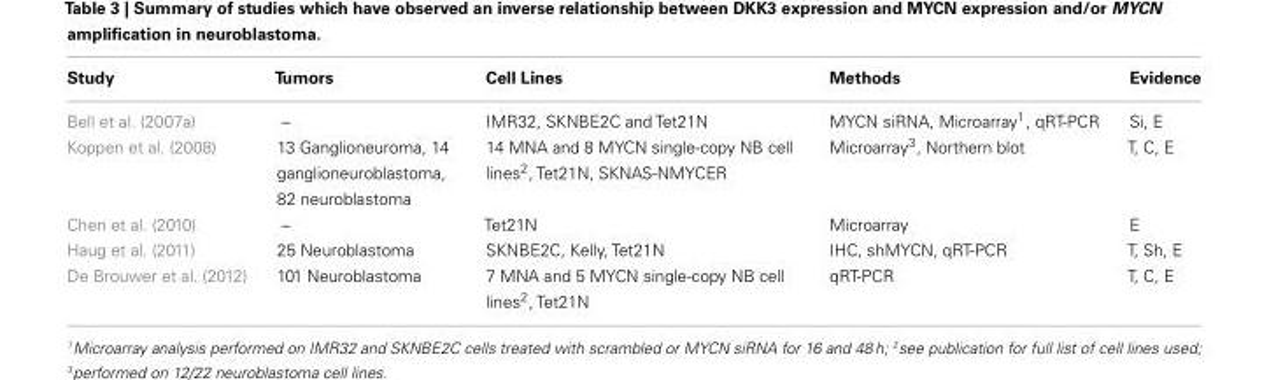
<table><thead><tr><td>Study</td><td>Tumors</td><td>Cell Lines</td><td>Methods</td><td>Evidence</td></tr></thead><tbody><tr><td>Bell et al. (2007a)</td><td>–</td><td>IMR32, SKNBE2C and Tet21N</td><td>MYCN siRNA, Microarray<sup>1</sup>, qRT-PCR</td><td>Si, E</td></tr><tr><td>Koppen et al. (2008)</td><td>13 Ganglioneuroma, 14 ganglioneuroblastoma, 82 neuroblastoma</td><td>14 MNA and 8 MYCN single-copy NB cell lines<sup>2</sup>, Tet21N, SKNAS-NMYCER</td><td>Microarray<sup>3</sup>, Northern blot</td><td>T, C, E</td></tr><tr><td>Chen et al. (2010)</td><td>–</td><td>Tet21N</td><td>Microarray</td><td>E</td></tr><tr><td>Haug et al. (2011)</td><td>25 Neuroblastoma</td><td>SKNBE2C, Kelly, Tet21N</td><td>IHC, shMYCN, qRT-PCR</td><td>T, Sh, E</td></tr><tr><td>De Brouwer et al. (2012)</td><td>101 Neuroblastoma</td><td>7 MNA and 5 MYCN single-copy NB cell lines<sup>2</sup>, Tet21N</td><td>qRT-PCR</td><td>T, C, E</td></tr></tbody></table>